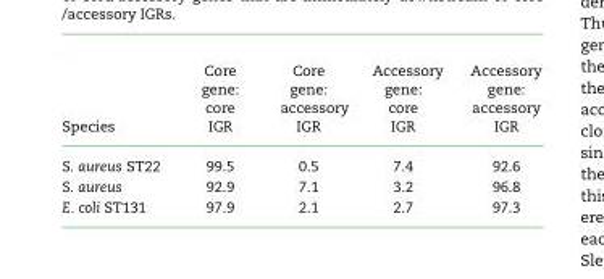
<table><thead><tr><td>Species</td><td>Core gene: core IGR</td><td>Core gene: accessory IGR</td><td>Accessory gene: core IGR</td><td>Accessory gene: accessory IGR</td></tr></thead><tbody><tr><td>S. aureus ST22</td><td>99.5</td><td>0.5</td><td>7.4</td><td>92.6</td></tr><tr><td>S. aureus</td><td>92.9</td><td>7.1</td><td>3.2</td><td>96.8</td></tr><tr><td>E. coli ST131</td><td>97.9</td><td>2.1</td><td>2.7</td><td>97.3</td></tr></tbody></table>